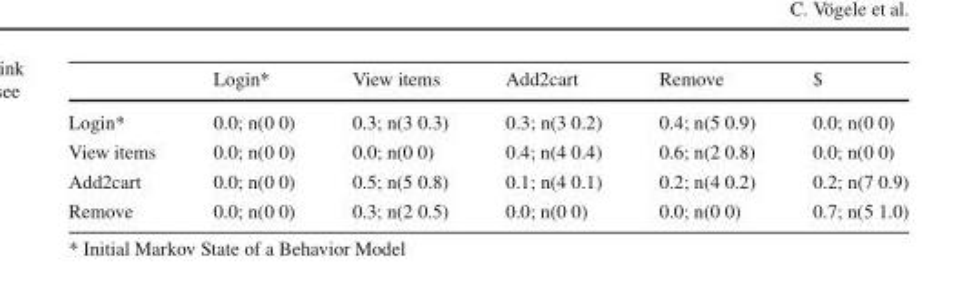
<table><thead><tr><td></td><td>Login*</td><td>View items</td><td>Add2cart</td><td>Remove</td><td>$</td></tr></thead><tbody><tr><td>Login*</td><td>0.0; n(0 0)</td><td>0.3; n(3 0.3)</td><td>0.3; n(3 0.2)</td><td>0.4; n(5 0.9)</td><td>0.0; n(0 0)</td></tr><tr><td>View items</td><td>0.0; n(0 0)</td><td>0.0; n(0 0)</td><td>0.4; n(4 0.4)</td><td>0.6; n(2 0.8)</td><td>0.0; n(0 0)</td></tr><tr><td>Add2cart</td><td>0.0; n(0 0)</td><td>0.5; n(5 0.8)</td><td>0.1; n(4 0.1)</td><td>0.2; n(4 0.2)</td><td>0.2; n(7 0.9)</td></tr><tr><td>Remove</td><td>0.0; n(0 0)</td><td>0.3; n(2 0.5)</td><td>0.0; n(0 0)</td><td>0.0; n(0 0)</td><td>0.7; n(5 1.0)</td></tr></tbody></table>